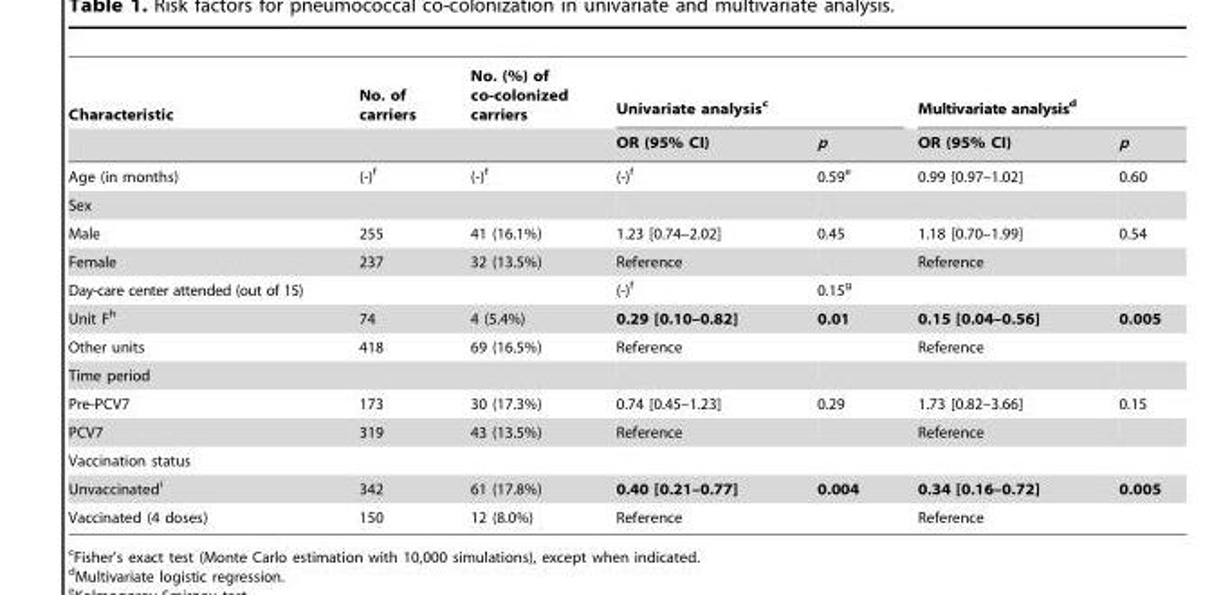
<table><thead><tr><td rowspan="2">Characteristic</td><td rowspan="2">No. of carriers</td><td rowspan="2">No. (%) of co-colonized carriers</td><td colspan="2">Univariate analysis<sup>c</sup></td><td colspan="2">Multivariate analysis<sup>d</sup></td></tr><tr><td>OR (95% CI)</td><td>p</td><td>OR (95% CI)</td><td>p</td></tr></thead><tbody><tr><td>Age (in months)</td><td>(-)<sup>f</sup></td><td>(-)<sup>f</sup></td><td>(-)<sup>f</sup></td><td>0.59<sup>e</sup></td><td>0.99 [0.97–1.02]</td><td>0.60</td></tr><tr><td colspan="7">Sex</td></tr><tr><td>Male</td><td>255</td><td>41 (16.1%)</td><td>1.23 [0.74–2.02]</td><td>0.45</td><td>1.18 [0.70–1.99]</td><td>0.54</td></tr><tr><td>Female</td><td>237</td><td>32 (13.5%)</td><td>Reference</td><td></td><td>Reference</td><td></td></tr><tr><td>Day-care center attended (out of 15)</td><td></td><td></td><td>(-)<sup>f</sup></td><td>0.15<sup>g</sup></td><td></td><td></td></tr><tr><td>Unit F<sup>h</sup></td><td>74</td><td>4 (5.4%)</td><td>0.29 [0.10–0.82]</td><td>0.01</td><td>0.15 [0.04–0.56]</td><td>0.005</td></tr><tr><td>Other units</td><td>418</td><td>69 (16.5%)</td><td>Reference</td><td></td><td>Reference</td><td></td></tr><tr><td colspan="7">Time period</td></tr><tr><td>Pre-PCV7</td><td>173</td><td>30 (17.3%)</td><td>0.74 [0.45–1.23]</td><td>0.29</td><td>1.73 [0.82–3.66]</td><td>0.15</td></tr><tr><td>PCV7</td><td>319</td><td>43 (13.5%)</td><td>Reference</td><td></td><td>Reference</td><td></td></tr><tr><td colspan="7">Vaccination status</td></tr><tr><td>Unvaccinated<sup>i</sup></td><td>342</td><td>61 (17.8%)</td><td>0.40 [0.21–0.77]</td><td>0.004</td><td>0.34 [0.16–0.72]</td><td>0.005</td></tr><tr><td>Vaccinated (4 doses)</td><td>150</td><td>12 (8.0%)</td><td>Reference</td><td></td><td>Reference</td><td></td></tr></tbody></table>